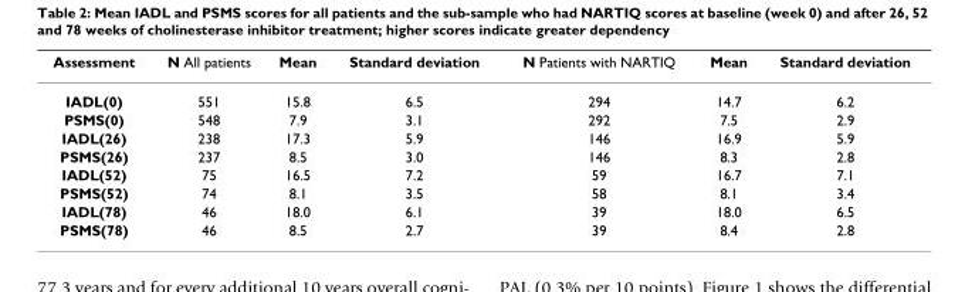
<table><thead><tr><td>Assessment</td><td>N All patients</td><td>Mean</td><td>Standard deviation</td><td>N Patients with NARTIQ</td><td>Mean</td><td>Standard deviation</td></tr></thead><tbody><tr><td>IADL(0)</td><td>551</td><td>15.8</td><td>6.5</td><td>294</td><td>14.7</td><td>6.2</td></tr><tr><td>PSMS(0)</td><td>548</td><td>7.9</td><td>3.1</td><td>292</td><td>7.5</td><td>2.9</td></tr><tr><td>IADL(26)</td><td>238</td><td>17.3</td><td>5.9</td><td>146</td><td>16.9</td><td>5.9</td></tr><tr><td>PSMS(26)</td><td>237</td><td>8.5</td><td>3.0</td><td>146</td><td>8.3</td><td>2.8</td></tr><tr><td>IADL(52)</td><td>75</td><td>16.5</td><td>7.2</td><td>59</td><td>16.7</td><td>7.1</td></tr><tr><td>PSMS(52)</td><td>74</td><td>8.1</td><td>3.5</td><td>58</td><td>8.1</td><td>3.4</td></tr><tr><td>IADL(78)</td><td>46</td><td>18.0</td><td>6.1</td><td>39</td><td>18.0</td><td>6.5</td></tr><tr><td>PSMS(78)</td><td>46</td><td>8.5</td><td>2.7</td><td>39</td><td>8.4</td><td>2.8</td></tr></tbody></table>